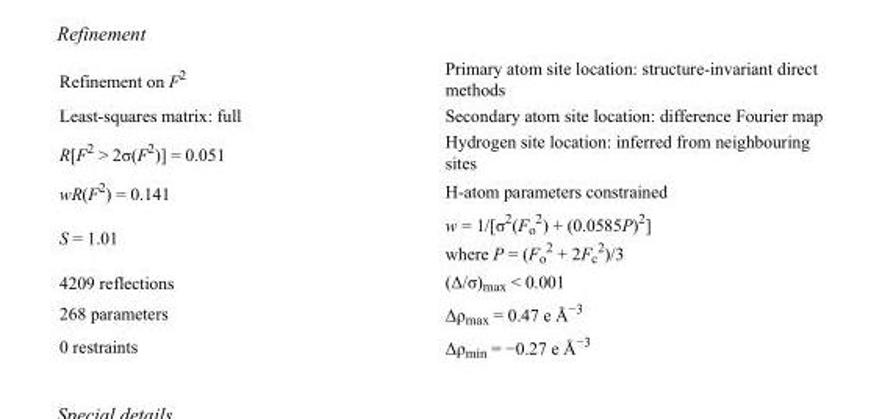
<table><tbody><tr><td>Refinement on F<sup>2</sup></td><td>Primary atom site location: structure-invariant direct methods</td></tr><tr><td>Least-squares matrix: full</td><td>Secondary atom site location: difference Fourier map</td></tr><tr><td>R[F<sup>2</sup> &gt; 2σ(F<sup>2</sup>)] = 0.051</td><td>Hydrogen site location: inferred from neighbouring sites</td></tr><tr><td>wR(F<sup>2</sup>) = 0.141</td><td>H-atom parameters constrained</td></tr><tr><td>S = 1.01</td><td>w = 1/[σ<sup>2</sup>(F<sub>o</sub> <sup>2</sup>) + (0.0585P)<sup>2</sup>] where P = (F<sub>o</sub> <sup>2</sup> + 2F<sub>c</sub> <sup>2</sup>)/3</td></tr><tr><td>4209 reflections</td><td>(Δ/σ)<sub>max</sub> &lt; 0.001</td></tr><tr><td>268 parameters</td><td>Δρ<sub>max</sub> = 0.47 e Å<sup>−3</sup></td></tr><tr><td>0 restraints</td><td>Δρ<sub>min</sub> = −0.27 e Å<sup>−3</sup></td></tr></tbody></table>